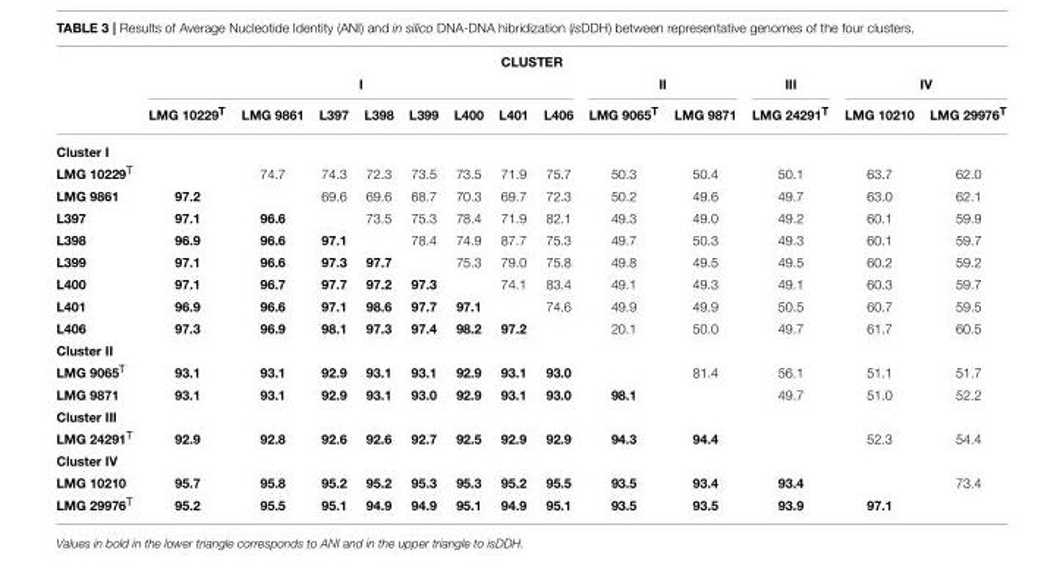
<table><thead><tr><td colspan="14">CLUSTER</td></tr><tr><td rowspan="2"></td><td colspan="8">I</td><td colspan="2">II</td><td rowspan="2">III LMG 24291T</td><td colspan="2">IV</td></tr><tr><td>LMG 10229<sup>T</sup></td><td>LMG 9861</td><td>L397</td><td>L398</td><td>L399</td><td>L400</td><td>L401</td><td>L406</td><td>LMG 9065<sup>T</sup></td><td>LMG 9871</td><td>LMG 10210</td><td>LMG 29976<sup>T</sup></td></tr></thead><tbody><tr><td colspan="14">Cluster I</td></tr><tr><td>LMG 10229<sup>T</sup></td><td></td><td>74.7</td><td>74.3</td><td>72.3</td><td>73.5</td><td>73.5</td><td>71.9</td><td>75.7</td><td>50.3</td><td>50.4</td><td>50.1</td><td>63.7</td><td>62.0</td></tr><tr><td>LMG 9861</td><td>97.2</td><td></td><td>69.6</td><td>69.6</td><td>68.7</td><td>70.3</td><td>69.7</td><td>72.3</td><td>50.2</td><td>49.6</td><td>49.7</td><td>63.0</td><td>62.1</td></tr><tr><td>L397</td><td>97.1</td><td>96.6</td><td></td><td>73.5</td><td>75.3</td><td>78.4</td><td>71.9</td><td>82.1</td><td>49.3</td><td>49.0</td><td>49.2</td><td>60.1</td><td>59.9</td></tr><tr><td>L398</td><td>96.9</td><td>96.6</td><td>97.1</td><td></td><td>78.4</td><td>74.9</td><td>87.7</td><td>75.3</td><td>49.7</td><td>50.3</td><td>49.3</td><td>60.1</td><td>59.7</td></tr><tr><td>L399</td><td>97.1</td><td>96.6</td><td>97.3</td><td>97.7</td><td></td><td>75.3</td><td>79.0</td><td>75.8</td><td>49.8</td><td>49.5</td><td>49.5</td><td>60.2</td><td>59.2</td></tr><tr><td>L400</td><td>97.1</td><td>96.7</td><td>97.7</td><td>97.2</td><td>97.3</td><td></td><td>74.1</td><td>83.4</td><td>49.1</td><td>49.3</td><td>49.1</td><td>60.3</td><td>59.7</td></tr><tr><td>L401</td><td>96.9</td><td>96.6</td><td>97.1</td><td>98.6</td><td>97.7</td><td>97.1</td><td></td><td>74.6</td><td>49.9</td><td>49.9</td><td>50.5</td><td>60.7</td><td>59.5</td></tr><tr><td>L406</td><td>97.3</td><td>96.9</td><td>98.1</td><td>97.3</td><td>97.4</td><td>98.2</td><td>97.2</td><td></td><td>20.1</td><td>50.0</td><td>49.7</td><td>61.7</td><td>60.5</td></tr><tr><td colspan="14">Cluster II</td></tr><tr><td>LMG 9065<sup>T</sup></td><td>93.1</td><td>93.1</td><td>92.9</td><td>93.1</td><td>93.1</td><td>92.9</td><td>93.1</td><td>93.0</td><td></td><td>81.4</td><td>56.1</td><td>51.1</td><td>51.7</td></tr><tr><td>LMG 9871</td><td>93.1</td><td>93.1</td><td>92.9</td><td>93.1</td><td>93.0</td><td>92.9</td><td>93.1</td><td>93.0</td><td>98.1</td><td></td><td>49.7</td><td>51.0</td><td>52.2</td></tr><tr><td colspan="14">Cluster III</td></tr><tr><td>LMG 24291T</td><td>92.9</td><td>92.8</td><td>92.6</td><td>92.6</td><td>92.7</td><td>92.5</td><td>92.9</td><td>92.9</td><td>94.3</td><td>94.4</td><td></td><td>52.3</td><td>54.4</td></tr><tr><td colspan="14">Cluster IV</td></tr><tr><td>LMG 10210</td><td>95.7</td><td>95.8</td><td>95.2</td><td>95.2</td><td>95.3</td><td>95.3</td><td>95.2</td><td>95.5</td><td>93.5</td><td>93.4</td><td>93.4</td><td></td><td>73.4</td></tr><tr><td>LMG 29976<sup>T</sup></td><td>95.2</td><td>95.5</td><td>95.1</td><td>94.9</td><td>94.9</td><td>95.1</td><td>94.9</td><td>95.1</td><td>93.5</td><td>93.5</td><td>93.9</td><td>97.1</td><td></td></tr></tbody></table>